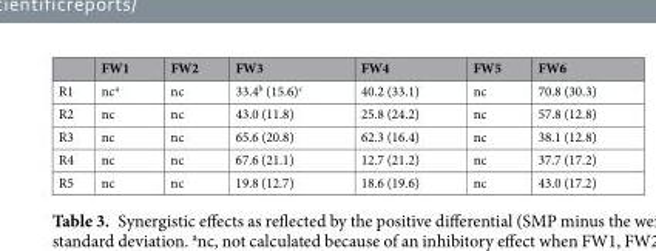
<table><thead><tr><td></td><td>FW1</td><td>FW2</td><td>FW3</td><td>FW4</td><td>FW5</td><td>FW6</td></tr></thead><tbody><tr><td>R1</td><td>nc<sup>a</sup></td><td>nc</td><td>33.4<sup>b</sup> (15.6)<sup>c</sup></td><td>40.2 (33.1)</td><td>nc</td><td>70.8 (30.3)</td></tr><tr><td>R2</td><td>nc</td><td>nc</td><td>43.0 (11.8)</td><td>25.8 (24.2)</td><td>nc</td><td>57.8 (12.8)</td></tr><tr><td>R3</td><td>nc</td><td>nc</td><td>65.6 (20.8)</td><td>62.3 (16.4)</td><td>nc</td><td>38.1 (12.8)</td></tr><tr><td>R4</td><td>nc</td><td>nc</td><td>67.6 (21.1)</td><td>12.7 (21.2)</td><td>nc</td><td>37.7 (17.2)</td></tr><tr><td>R5</td><td>nc</td><td>nc</td><td>19.8 (12.7)</td><td>18.6 (19.6)</td><td>nc</td><td>43.0 (17.2)</td></tr></tbody></table>